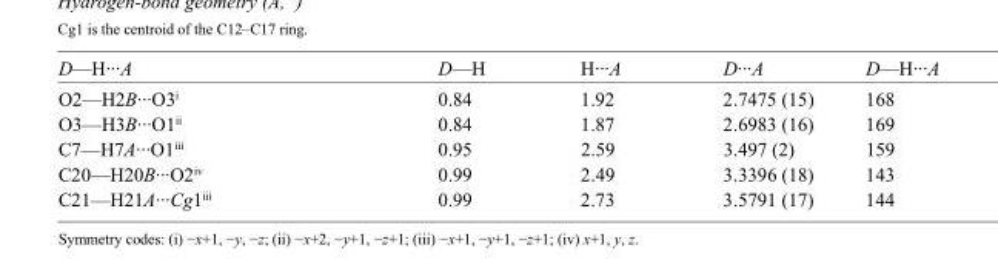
<table><tbody><tr><td>D—H···A</td><td>D—H</td><td>H···A</td><td>D···A</td><td>D—H···A</td></tr><tr><td>O2—H2B···O3<sup>i</sup></td><td>0.84</td><td>1.92</td><td>2.7475 (15)</td><td>168</td></tr><tr><td>O3—H3B···O1<sup>ii</sup></td><td>0.84</td><td>1.87</td><td>2.6983 (16)</td><td>169</td></tr><tr><td>C7—H7A···O1<sup>iii</sup></td><td>0.95</td><td>2.59</td><td>3.497 (2)</td><td>159</td></tr><tr><td>C20—H20B···O2<sup>iv</sup></td><td>0.99</td><td>2.49</td><td>3.3396 (18)</td><td>143</td></tr><tr><td>C21—H21A···Cg1<sup>iii</sup></td><td>0.99</td><td>2.73</td><td>3.5791 (17)</td><td>144</td></tr></tbody></table>